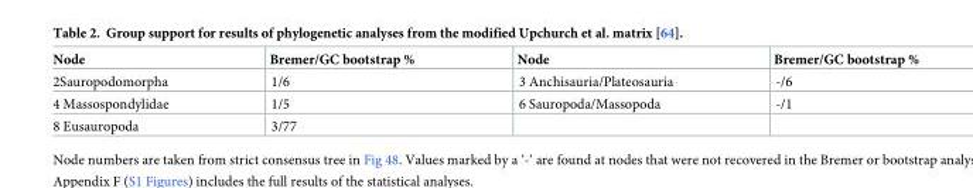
<table><thead><tr><td>Node</td><td>Bremer/GC bootstrap %</td><td>Node</td><td>Bremer/GC bootstrap %</td></tr></thead><tbody><tr><td>2Sauropodomorpha</td><td>1/6</td><td>3 Anchisauria/Plateosauria</td><td>-/6</td></tr><tr><td>4 Massospondylidae</td><td>1/5</td><td>6 Sauropoda/Massopoda</td><td>-/1</td></tr><tr><td>8 Eusauropoda</td><td>3/77</td><td></td><td></td></tr></tbody></table>